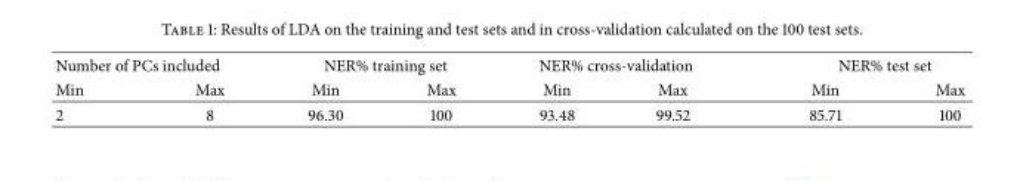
<table><thead><tr><td colspan="2">Number of PCs included</td><td colspan="2">NER% training set</td><td colspan="2">NER% cross-validation</td><td colspan="2">NER% test set</td></tr><tr><td>Min</td><td>Max</td><td>Min</td><td>Max</td><td>Min</td><td>Max</td><td>Min</td><td>Max</td></tr></thead><tbody><tr><td>2</td><td>8</td><td>96.30</td><td>100</td><td>93.48</td><td>99.52</td><td>85.71</td><td>100</td></tr></tbody></table>